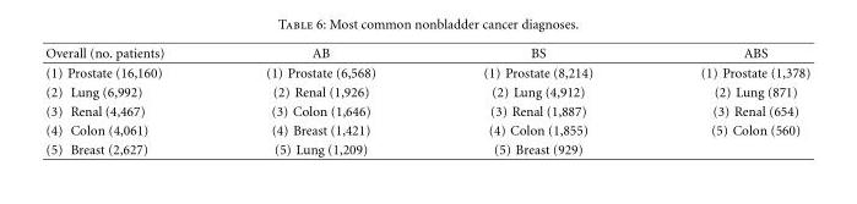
<table><thead><tr><td>Overall (no. patients)</td><td>AB</td><td>BS</td><td>ABS</td></tr></thead><tbody><tr><td>(1) Prostate (16,160)</td><td>(1) Prostate (6,568)</td><td>(1) Prostate (8,214)</td><td>(1) Prostate (1,378)</td></tr><tr><td>(2) Lung (6,992)</td><td>(2) Renal (1,926)</td><td>(2) Lung (4,912)</td><td>(2) Lung (871)</td></tr><tr><td>(3) Renal (4,467)</td><td>(3) Colon (1,646)</td><td>(3) Renal (1,887)</td><td>(3) Renal (654)</td></tr><tr><td>(4) Colon (4,061)</td><td>(4) Breast (1,421)</td><td>(4) Colon (1,855)</td><td>(5) Colon (560)</td></tr><tr><td>(5) Breast (2,627)</td><td>(5) Lung (1,209)</td><td>(5) Breast (929)</td><td></td></tr></tbody></table>